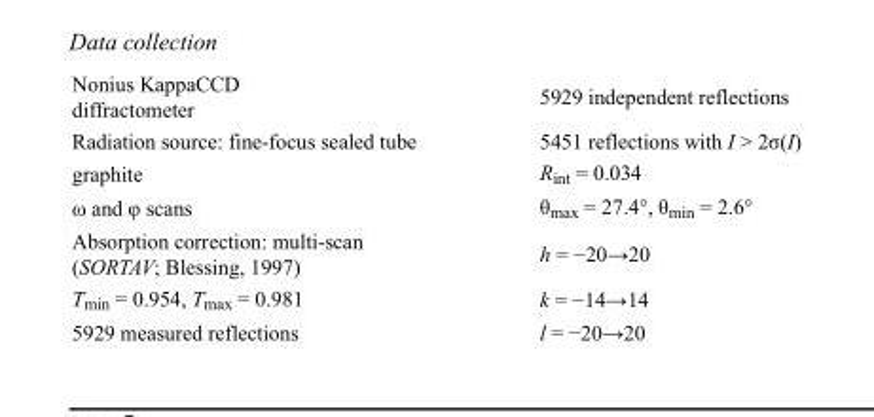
<table><tbody><tr><td>Nonius KappaCCD diffractometer</td><td>5929 independent reflections</td></tr><tr><td>Radiation source: fine-focus sealed tube</td><td>5451 reflections with I &gt; 2σ(I)</td></tr><tr><td>graphite</td><td>R<sub>int</sub> = 0.034</td></tr><tr><td>ω and φ scans</td><td>θ<sub>max</sub> = 27.4°, θ<sub>min</sub> = 2.6°</td></tr><tr><td>Absorption correction: multi-scan (SORTAV; Blessing, 1997)</td><td>h = −20→20</td></tr><tr><td>T<sub>min</sub> = 0.954, T<sub>max</sub> = 0.981</td><td>k = −14→14</td></tr><tr><td>5929 measured reflections</td><td>l = −20→20</td></tr></tbody></table>